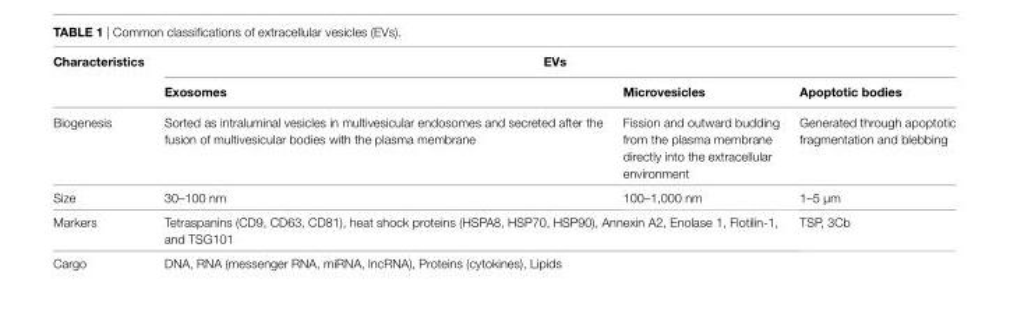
<table><thead><tr><td rowspan="2">Characteristics</td><td colspan="3">evs</td></tr><tr><td>exosomes</td><td>Microvesicles</td><td>Apoptotic bodies</td></tr></thead><tbody><tr><td>Biogenesis</td><td>Sorted as intraluminal vesicles in multivesicular endosomes and secreted after the fusion of multivesicular bodies with the plasma membrane</td><td>Fission and outward budding from the plasma membrane directly into the extracellular environment</td><td>Generated through apoptotic fragmentation and blebbing</td></tr><tr><td>Size</td><td>30–100 nm</td><td>100–1,000 nm</td><td>1–5 µm</td></tr><tr><td>Markers</td><td colspan="2">Tetraspanins (CD9, CD63, CD81), heat shock proteins (HSPA8, HSP70, HSP90), Annexin A2, Enolase 1, Flotilin-1, and TSG101</td><td>TSP, 3Cb</td></tr><tr><td>Cargo</td><td colspan="3">DNA, RNA (messenger RNA, miRNA, lncRNA), Proteins (cytokines), Lipids</td></tr></tbody></table>